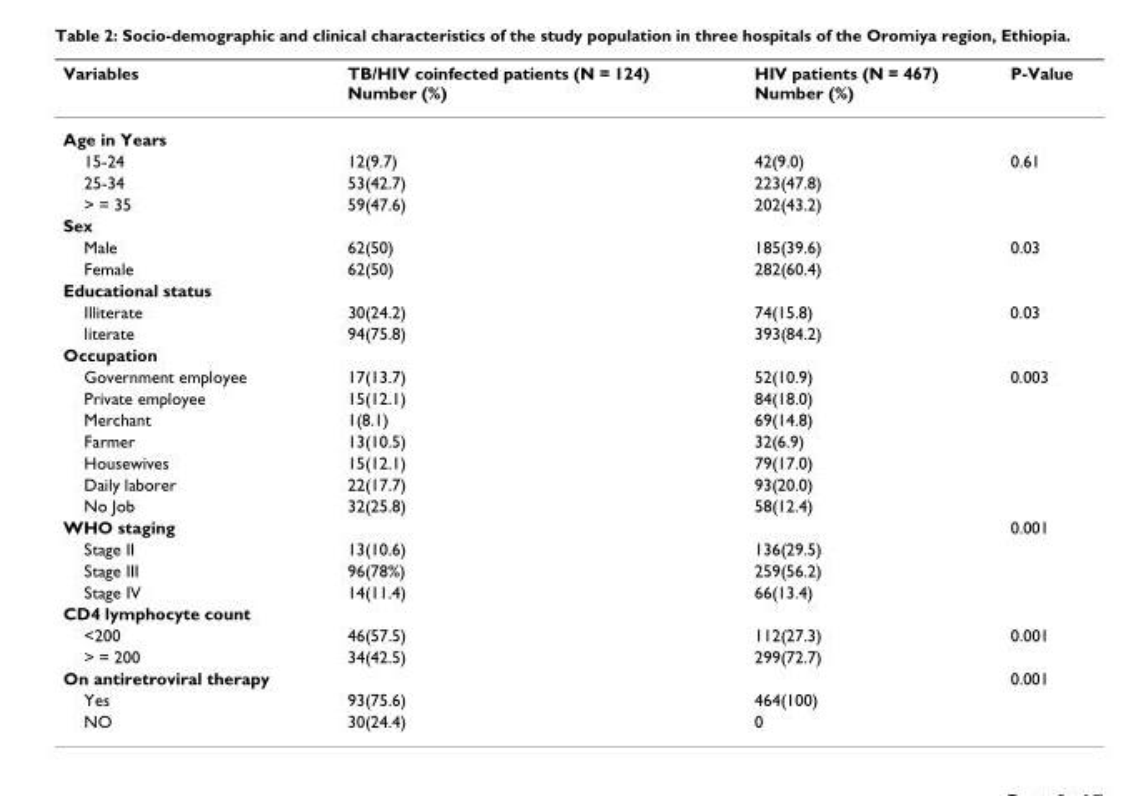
<table><thead><tr><td>Variables</td><td>TB/HIV coinfected patients (N = 124) Number (%)</td><td>HIV patients (N = 467) Number (%)</td><td>P-Value</td></tr></thead><tbody><tr><td colspan="4">Age in Years</td></tr><tr><td>15-24</td><td>12(9.7)</td><td>42(9.0)</td><td>0.61</td></tr><tr><td>25-34</td><td>53(42.7)</td><td>223(47.8)</td><td></td></tr><tr><td>&gt; = 35</td><td>59(47.6)</td><td>202(43.2)</td><td></td></tr><tr><td colspan="4">Sex</td></tr><tr><td>Male</td><td>62(50)</td><td>185(39.6)</td><td>0.03</td></tr><tr><td>Female</td><td>62(50)</td><td>282(60.4)</td><td></td></tr><tr><td colspan="4">Educational status</td></tr><tr><td>Illiterate</td><td>30(24.2)</td><td>74(15.8)</td><td>0.03</td></tr><tr><td>literate</td><td>94(75.8)</td><td>393(84.2)</td><td></td></tr><tr><td colspan="4">Occupation</td></tr><tr><td>Government employee</td><td>17(13.7)</td><td>52(10.9)</td><td>0.003</td></tr><tr><td>Private employee</td><td>15(12.1)</td><td>84(18.0)</td><td></td></tr><tr><td>Merchant</td><td>1(8.1)</td><td>69(14.8)</td><td></td></tr><tr><td>Farmer</td><td>13(10.5)</td><td>32(6.9)</td><td></td></tr><tr><td>Housewives</td><td>15(12.1)</td><td>79(17.0)</td><td></td></tr><tr><td>Daily laborer</td><td>22(17.7)</td><td>93(20.0)</td><td></td></tr><tr><td>No Job</td><td>32(25.8)</td><td>58(12.4)</td><td></td></tr><tr><td>WHO staging</td><td></td><td></td><td>0.001</td></tr><tr><td>Stage II</td><td>13(10.6)</td><td>136(29.5)</td><td></td></tr><tr><td>Stage III</td><td>96(78%)</td><td>259(56.2)</td><td></td></tr><tr><td>Stage IV</td><td>14(11.4)</td><td>66(13.4)</td><td></td></tr><tr><td colspan="4">CD4 lymphocyte count</td></tr><tr><td>&lt;200</td><td>46(57.5)</td><td>112(27.3)</td><td>0.001</td></tr><tr><td>&gt; = 200</td><td>34(42.5)</td><td>299(72.7)</td><td></td></tr><tr><td>On antiretroviral therapy</td><td></td><td></td><td>0.001</td></tr><tr><td>Yes</td><td>93(75.6)</td><td>464(100)</td><td></td></tr><tr><td>NO</td><td>30(24.4)</td><td>0</td><td></td></tr></tbody></table>